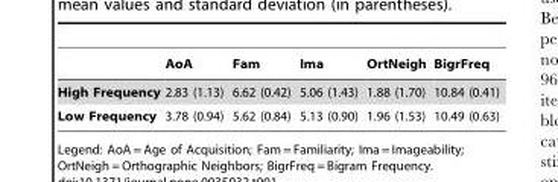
<table><thead><tr><td></td><td>AoA</td><td>Fam</td><td>Ima</td><td>OrtNeigh</td><td>BigrFreq</td></tr></thead><tbody><tr><td>High Frequency</td><td>2.83 (1.13)</td><td>6.62 (0.42)</td><td>5.06 (1.43)</td><td>1.88 (1.70)</td><td>10.84 (0.41)</td></tr><tr><td>Low Frequency</td><td>3.78 (0.94)</td><td>5.62 (0.84)</td><td>5.13 (0.90)</td><td>1.96 (1.53)</td><td>10.49 (0.63)</td></tr></tbody></table>